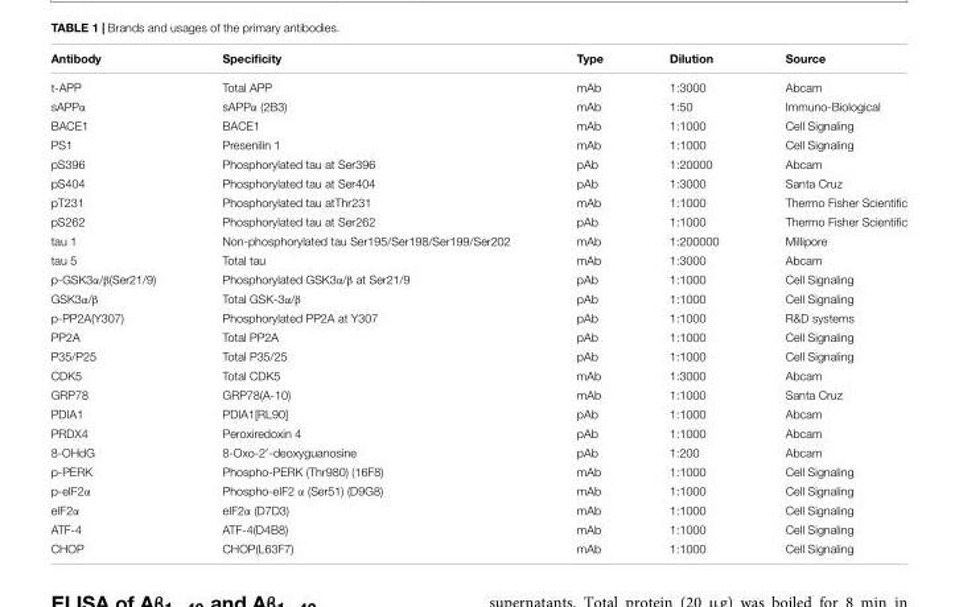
<table><thead><tr><td>Antibody</td><td>Specificity</td><td>Type</td><td>Dilution</td><td>Source</td></tr></thead><tbody><tr><td>t-APP</td><td>Total APP</td><td>mAb</td><td>1:3000</td><td>Abcam</td></tr><tr><td>sAPPα</td><td>sAPPα (2B3)</td><td>mAb</td><td>1:50</td><td>Immuno-Biological</td></tr><tr><td>BACE1</td><td>BACE1</td><td>mAb</td><td>1:1000</td><td>Cell Signaling</td></tr><tr><td>PS1</td><td>Presenilin 1</td><td>mAb</td><td>1:1000</td><td>Cell Signaling</td></tr><tr><td>pS396</td><td>Phosphorylated tau at Ser396</td><td>pAb</td><td>1:20000</td><td>Abcam</td></tr><tr><td>pS404</td><td>Phosphorylated tau at Ser404</td><td>pAb</td><td>1:3000</td><td>Santa Cruz</td></tr><tr><td>pT231</td><td>Phosphorylated tau atThr231</td><td>mAb</td><td>1:1000</td><td>Thermo Fisher Scientific</td></tr><tr><td>pS262</td><td>Phosphorylated tau at Ser262</td><td>pAb</td><td>1:1000</td><td>Thermo Fisher Scientific</td></tr><tr><td>tau 1</td><td>Non-phosphorylated tau Ser195/Ser198/Ser199/Ser202</td><td>mAb</td><td>1:200000</td><td>Millipore</td></tr><tr><td>tau 5</td><td>Total tau</td><td>mAb</td><td>1:3000</td><td>Abcam</td></tr><tr><td>p-GSK3α/β(Ser21/9)</td><td>Phosphorylated GSK3α/β at Ser21/9</td><td>pAb</td><td>1:1000</td><td>Cell Signaling</td></tr><tr><td>GSK3α/β</td><td>Total GSK-3α/β</td><td>pAb</td><td>1:1000</td><td>Cell Signaling</td></tr><tr><td>p-PP2A(Y307)</td><td>Phosphorylated PP2A at Y307</td><td>pAb</td><td>1:1000</td><td>R&amp;D systems</td></tr><tr><td>PP2A</td><td>Total PP2A</td><td>pAb</td><td>1:1000</td><td>Cell Signaling</td></tr><tr><td>P35/P25</td><td>Total P35/25</td><td>pAb</td><td>1:1000</td><td>Cell Signaling</td></tr><tr><td>CDK5</td><td>Total CDK5</td><td>mAb</td><td>1:3000</td><td>Abcam</td></tr><tr><td>GRP78</td><td>GRP78(A-10)</td><td>mAb</td><td>1:1000</td><td>Santa Cruz</td></tr><tr><td>PDIA1</td><td>PDIA1[RL90]</td><td>pAb</td><td>1:1000</td><td>Abcam</td></tr><tr><td>PRDX4</td><td>Peroxiredoxin 4</td><td>pAb</td><td>1:1000</td><td>Abcam</td></tr><tr><td>8-OHdG</td><td>8-Oxo-2′-deoxyguanosine</td><td>pAb</td><td>1:200</td><td>Abcam</td></tr><tr><td>p-PERK</td><td>Phospho-PERK (Thr980) (16F8)</td><td>mAb</td><td>1:1000</td><td>Cell Signaling</td></tr><tr><td>p-eIF2α</td><td>Phospho-eIF2 α (Ser51) (D9G8)</td><td>mAb</td><td>1:1000</td><td>Cell Signaling</td></tr><tr><td>eIF2α</td><td>eIF2α (D7D3)</td><td>mAb</td><td>1:1000</td><td>Cell Signaling</td></tr><tr><td>ATF-4</td><td>ATF-4(D4B8)</td><td>mAb</td><td>1:1000</td><td>Cell Signaling</td></tr><tr><td>CHOP</td><td>CHOP(L63F7)</td><td>mAb</td><td>1:1000</td><td>Cell Signaling</td></tr></tbody></table>